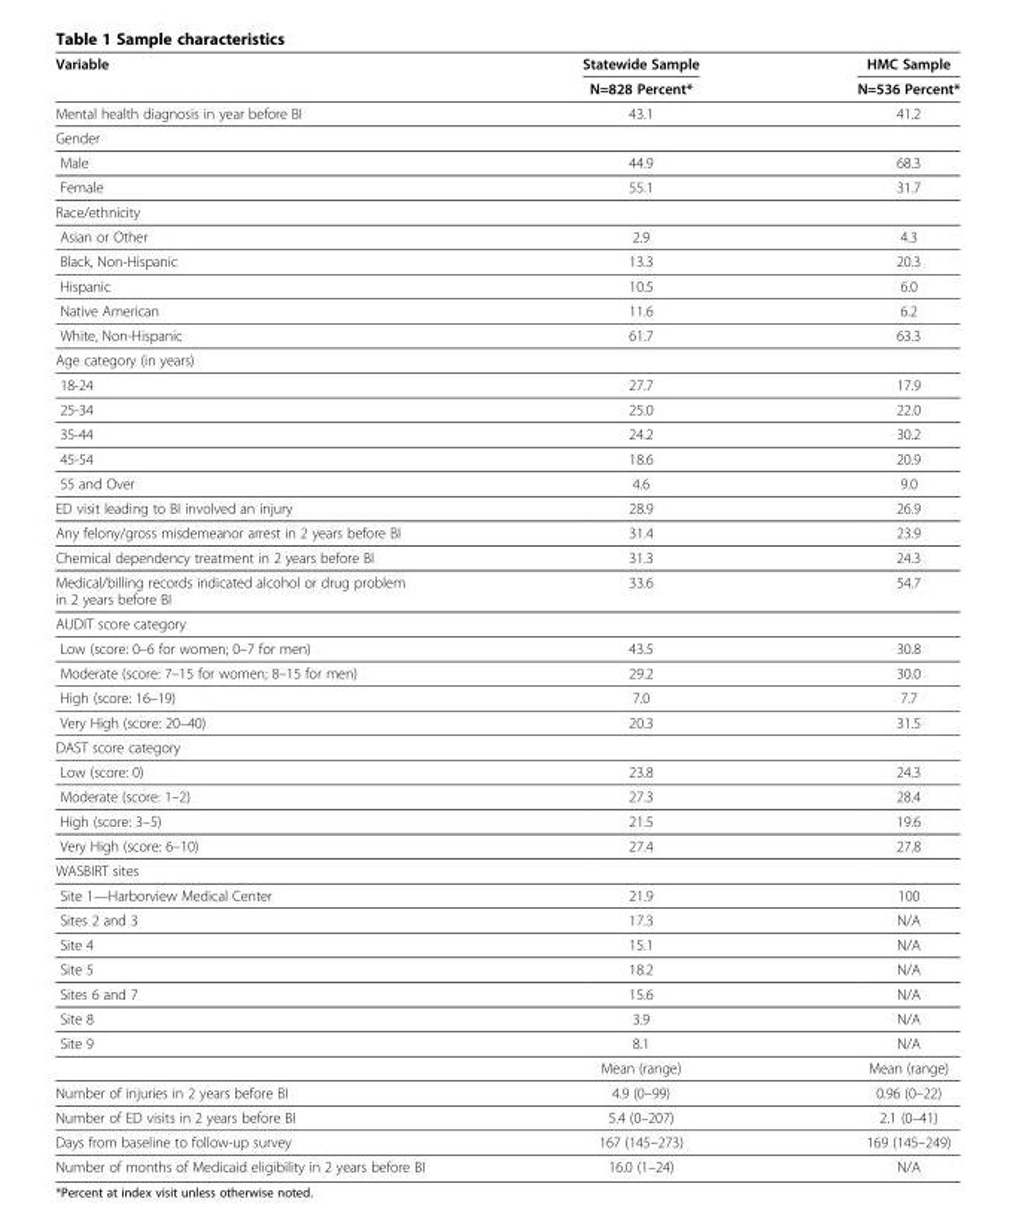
<table><thead><tr><td rowspan="2">Variable</td><td rowspan="2">Statewide Sample N=828 Percent*</td><td rowspan="2">HMC Sample N=536 Percent*</td></tr><tr></tr></thead><tbody><tr><td>Mental health diagnosis in year before BI</td><td>43.1</td><td>41.2</td></tr><tr><td colspan="3">Gender</td></tr><tr><td>Male</td><td>44.9</td><td>68.3</td></tr><tr><td>Female</td><td>55.1</td><td>31.7</td></tr><tr><td colspan="3">Race/ethnicity</td></tr><tr><td>Asian or Other</td><td>2.9</td><td>4.3</td></tr><tr><td>Black, Non-Hispanic</td><td>13.3</td><td>20.3</td></tr><tr><td>Hispanic</td><td>10.5</td><td>6.0</td></tr><tr><td>Native American</td><td>11.6</td><td>6.2</td></tr><tr><td>White, Non-Hispanic</td><td>61.7</td><td>63.3</td></tr><tr><td colspan="3">Age category (in years)</td></tr><tr><td>18-24</td><td>27.7</td><td>17.9</td></tr><tr><td>25-34</td><td>25.0</td><td>22.0</td></tr><tr><td>35-44</td><td>24.2</td><td>30.2</td></tr><tr><td>45-54</td><td>18.6</td><td>20.9</td></tr><tr><td>55 and Over</td><td>4.6</td><td>9.0</td></tr><tr><td>ED visit leading to BI involved an injury</td><td>28.9</td><td>26.9</td></tr><tr><td>Any felony/gross misdemeanor arrest in 2 years before BI</td><td>31.4</td><td>23.9</td></tr><tr><td>Chemical dependency treatment in 2 years before BI</td><td>31.3</td><td>24.3</td></tr><tr><td>Medical/billing records indicated alcohol or drug problem in 2 years before BI</td><td>33.6</td><td>54.7</td></tr><tr><td colspan="3">AUDIT score category</td></tr><tr><td>Low (score: 0–6 for women; 0–7 for men)</td><td>43.5</td><td>30.8</td></tr><tr><td>Moderate (score: 7–15 for women; 8–15 for men)</td><td>29.2</td><td>30.0</td></tr><tr><td>High (score: 16–19)</td><td>7.0</td><td>7.7</td></tr><tr><td>Very High (score: 20–40)</td><td>20.3</td><td>31.5</td></tr><tr><td colspan="3">DAST score category</td></tr><tr><td>Low (score: 0)</td><td>23.8</td><td>24.3</td></tr><tr><td>Moderate (score: 1–2)</td><td>27.3</td><td>28.4</td></tr><tr><td>High (score: 3–5)</td><td>21.5</td><td>19.6</td></tr><tr><td>Very High (score: 6–10)</td><td>27.4</td><td>27.8</td></tr><tr><td colspan="3">WASBIRT sites</td></tr><tr><td>Site 1—Harborview Medical Center</td><td>21.9</td><td>100</td></tr><tr><td>Sites 2 and 3</td><td>17.3</td><td>N/A</td></tr><tr><td>Site 4</td><td>15.1</td><td>N/A</td></tr><tr><td>Site 5</td><td>18.2</td><td>N/A</td></tr><tr><td>Sites 6 and 7</td><td>15.6</td><td>N/A</td></tr><tr><td>Site 8</td><td>3.9</td><td>N/A</td></tr><tr><td rowspan="2">Site 9</td><td>8.1</td><td>N/A</td></tr><tr><td>Mean (range)</td><td>Mean (range)</td></tr><tr><td>Number of injuries in 2 years before BI</td><td>4.9 (0–99)</td><td>0.96 (0–22)</td></tr><tr><td>Number of ED visits in 2 years before BI</td><td>5.4 (0–207)</td><td>2.1 (0–41)</td></tr><tr><td>Days from baseline to follow-up survey</td><td>167 (145–273)</td><td>169 (145–249)</td></tr><tr><td>Number of months of Medicaid eligibility in 2 years before BI</td><td>16.0 (1–24)</td><td>N/A</td></tr></tbody></table>